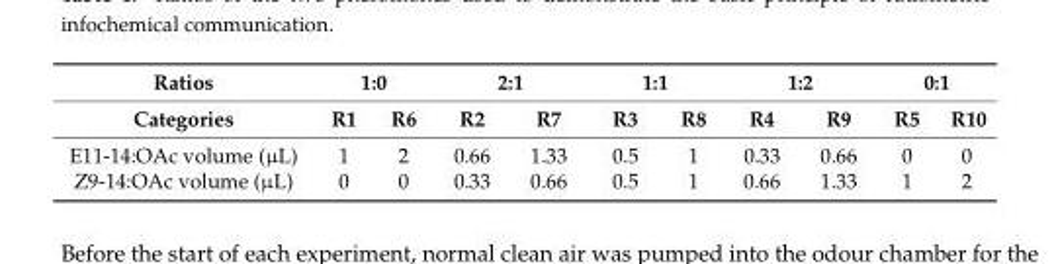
<table><thead><tr><td rowspan="2">Ratios Categories</td><td colspan="2">1:0</td><td colspan="2">2:1</td><td colspan="2">1:1</td><td colspan="2">1:2</td><td colspan="2">0:1</td></tr><tr><td>R1</td><td>R6</td><td>R2</td><td>R7</td><td>R3</td><td>R8</td><td>R4</td><td>R9</td><td>R5</td><td>R10</td></tr></thead><tbody><tr><td>E11-14:OAc volume (µL)</td><td>1</td><td>2</td><td>0.66</td><td>1.33</td><td>0.5</td><td>1</td><td>0.33</td><td>0.66</td><td>0</td><td>0</td></tr><tr><td>Z9-14:OAc volume (µL)</td><td>0</td><td>0</td><td>0.33</td><td>0.66</td><td>0.5</td><td>1</td><td>0.66</td><td>1.33</td><td>1</td><td>2</td></tr></tbody></table>